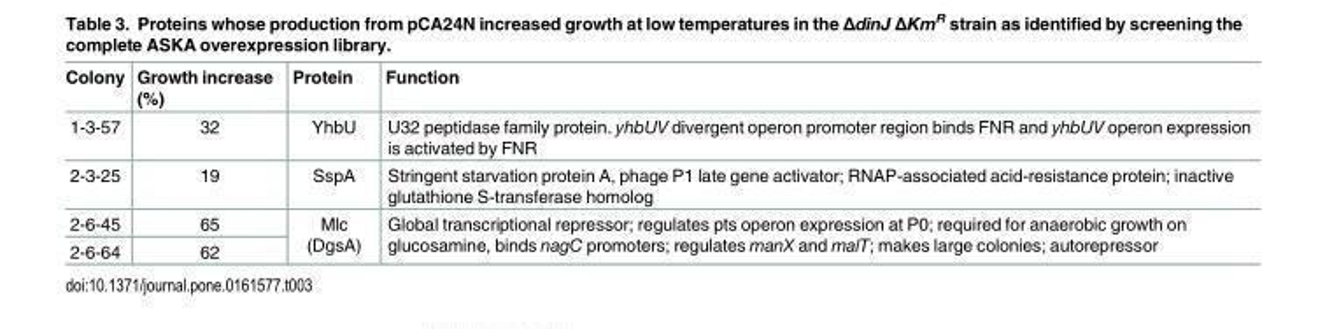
<table><thead><tr><td>Colony</td><td>Growth increase (%)</td><td>Protein</td><td>Function</td></tr></thead><tbody><tr><td>1-3-57</td><td>32</td><td>YhbU</td><td>U32 peptidase family protein. yhbUV divergent operon promoter region binds FNR and yhbUV operon expression is activated by FNR</td></tr><tr><td>2-3-25</td><td>19</td><td>SspA</td><td>Stringent starvation protein A, phage P1 late gene activator; RNAP-associated acid-resistance protein; inactive glutathione S-transferase homolog</td></tr><tr><td>2-6-45</td><td>65</td><td rowspan="2">Mlc (DgsA)</td><td rowspan="2">Global transcriptional repressor; regulates pts operon expression at P0; required for anaerobic growth on glucosamine, binds nagC promoters; regulates manX and malT; makes large colonies; autorepressor</td></tr><tr><td>2-6-64</td><td>62</td></tr></tbody></table>